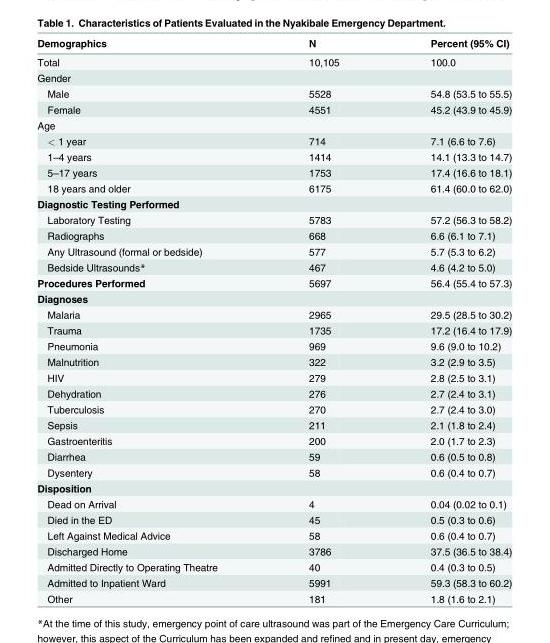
<table><thead><tr><td>Demographics</td><td>N</td><td>Percent (95% CI)</td></tr></thead><tbody><tr><td>Total</td><td>10,105</td><td>100.0</td></tr><tr><td colspan="3">Gender</td></tr><tr><td>Male</td><td>5528</td><td>54.8 (53.5 to 55.5)</td></tr><tr><td>Female</td><td>4551</td><td>45.2 (43.9 to 45.9)</td></tr><tr><td colspan="3">Age</td></tr><tr><td>&lt; 1 year</td><td>714</td><td>7.1 (6.6 to 7.6)</td></tr><tr><td>1–4 years</td><td>1414</td><td>14.1 (13.3 to 14.7)</td></tr><tr><td>5–17 years</td><td>1753</td><td>17.4 (16.6 to 18.1)</td></tr><tr><td>18 years and older</td><td>6175</td><td>61.4 (60.0 to 62.0)</td></tr><tr><td colspan="3">Diagnostic Testing Performed</td></tr><tr><td>Laboratory Testing</td><td>5783</td><td>57.2 (56.3 to 58.2)</td></tr><tr><td>Radiographs</td><td>668</td><td>6.6 (6.1 to 7.1)</td></tr><tr><td>Any Ultrasound (formal or bedside)</td><td>577</td><td>5.7 (5.3 to 6.2)</td></tr><tr><td>Bedside Ultrasounds*</td><td>467</td><td>4.6 (4.2 to 5.0)</td></tr><tr><td>Procedures Performed</td><td>5697</td><td>56.4 (55.4 to 57.3)</td></tr><tr><td colspan="3">Diagnoses</td></tr><tr><td>Malaria</td><td>2965</td><td>29.5 (28.5 to 30.2)</td></tr><tr><td>Trauma</td><td>1735</td><td>17.2 (16.4 to 17.9)</td></tr><tr><td>Pneumonia</td><td>969</td><td>9.6 (9.0 to 10.2)</td></tr><tr><td>Malnutrition</td><td>322</td><td>3.2 (2.9 to 3.5)</td></tr><tr><td>HIV</td><td>279</td><td>2.8 (2.5 to 3.1)</td></tr><tr><td>Dehydration</td><td>276</td><td>2.7 (2.4 to 3.1)</td></tr><tr><td>Tuberculosis</td><td>270</td><td>2.7 (2.4 to 3.0)</td></tr><tr><td>Sepsis</td><td>211</td><td>2.1 (1.8 to 2.4)</td></tr><tr><td>Gastroenteritis</td><td>200</td><td>2.0 (1.7 to 2.3)</td></tr><tr><td>Diarrhea</td><td>59</td><td>0.6 (0.5 to 0.8)</td></tr><tr><td>Dysentery</td><td>58</td><td>0.6 (0.4 to 0.7)</td></tr><tr><td colspan="3">Disposition</td></tr><tr><td>Dead on Arrival</td><td>4</td><td>0.04 (0.02 to 0.1)</td></tr><tr><td>Died in the ED</td><td>45</td><td>0.5 (0.3 to 0.6)</td></tr><tr><td>Left Against Medical Advice</td><td>58</td><td>0.6 (0.4 to 0.7)</td></tr><tr><td>Discharged Home</td><td>3786</td><td>37.5 (36.5 to 38.4)</td></tr><tr><td>Admitted Directly to Operating Theatre</td><td>40</td><td>0.4 (0.3 to 0.5)</td></tr><tr><td>Admitted to Inpatient Ward</td><td>5991</td><td>59.3 (58.3 to 60.2)</td></tr><tr><td>Other</td><td>181</td><td>1.8 (1.6 to 2.1)</td></tr></tbody></table>